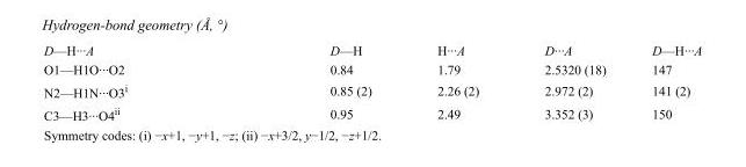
<table><tbody><tr><td>D—H···A</td><td>D—H</td><td>H···A</td><td>D···A</td><td>D—H···A</td></tr><tr><td>O1—H1O···O2</td><td>0.84</td><td>1.79</td><td>2.5320 (18)</td><td>147</td></tr><tr><td>N2—H1N···O3<sup>i</sup></td><td>0.85 (2)</td><td>2.26 (2)</td><td>2.972 (2)</td><td>141 (2)</td></tr><tr><td>C3—H3···O4<sup>ii</sup></td><td>0.95</td><td>2.49</td><td>3.352 (3)</td><td>150</td></tr></tbody></table>